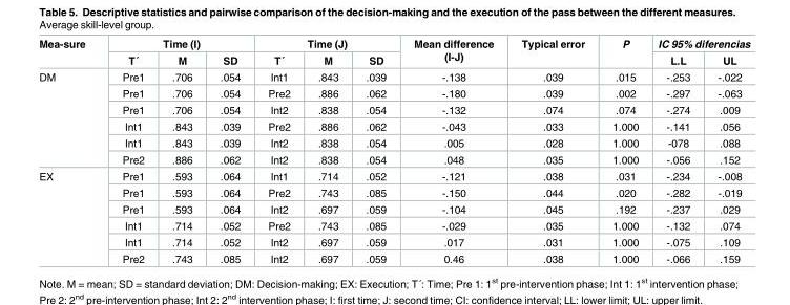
<table><thead><tr><td rowspan="2">Mea-sure</td><td colspan="3">Time (I)</td><td colspan="3">Time (J)</td><td rowspan="2">Mean difference (I-J)</td><td rowspan="2">Typical error</td><td rowspan="2">P</td><td colspan="2">IC 95% diferencias</td></tr><tr><td>T´</td><td>M</td><td>SD</td><td>T´</td><td>M</td><td>SD</td><td>L.L</td><td>UL</td></tr></thead><tbody><tr><td rowspan="6">DM</td><td>Pre1</td><td>.706</td><td>.054</td><td>Int1</td><td>.843</td><td>.039</td><td>-.138</td><td>.039</td><td>.015</td><td>-.253</td><td>-.022</td></tr><tr><td>Pre1</td><td>.706</td><td>.054</td><td>Pre2</td><td>.886</td><td>.062</td><td>-.180</td><td>.039</td><td>.002</td><td>-.297</td><td>-.063</td></tr><tr><td>Pre1</td><td>.706</td><td>.054</td><td>Int2</td><td>.838</td><td>.054</td><td>-.132</td><td>.074</td><td>.074</td><td>-.274</td><td>.009</td></tr><tr><td>Int1</td><td>.843</td><td>.039</td><td>Pre2</td><td>.886</td><td>.062</td><td>-.043</td><td>.033</td><td>1.000</td><td>-.141</td><td>.056</td></tr><tr><td>Int1</td><td>.843</td><td>.039</td><td>Int2</td><td>.838</td><td>.054</td><td>.005</td><td>.028</td><td>1.000</td><td>-078</td><td>.088</td></tr><tr><td>Pre2</td><td>.886</td><td>.062</td><td>Int2</td><td>.838</td><td>.054</td><td>.048</td><td>.035</td><td>1.000</td><td>-.056</td><td>.152</td></tr><tr><td rowspan="6">EX</td><td>Pre1</td><td>.593</td><td>.064</td><td>Int1</td><td>.714</td><td>.052</td><td>-.121</td><td>.038</td><td>.031</td><td>-.234</td><td>-.008</td></tr><tr><td>Pre1</td><td>.593</td><td>.064</td><td>Pre2</td><td>.743</td><td>.085</td><td>-.150</td><td>.044</td><td>.020</td><td>-.282</td><td>-.019</td></tr><tr><td>Pre1</td><td>.593</td><td>.064</td><td>Int2</td><td>.697</td><td>.059</td><td>-.104</td><td>.045</td><td>.192</td><td>-.237</td><td>.029</td></tr><tr><td>Int1</td><td>.714</td><td>.052</td><td>Pre2</td><td>.743</td><td>.085</td><td>-.029</td><td>.035</td><td>1.000</td><td>-.132</td><td>.074</td></tr><tr><td>Int1</td><td>.714</td><td>.052</td><td>Int2</td><td>.697</td><td>.059</td><td>.017</td><td>.031</td><td>1.000</td><td>-.075</td><td>.109</td></tr><tr><td>Pre2</td><td>.743</td><td>.085</td><td>Int2</td><td>.697</td><td>.059</td><td>0.46</td><td>.038</td><td>1.000</td><td>-.066</td><td>.159</td></tr></tbody></table>